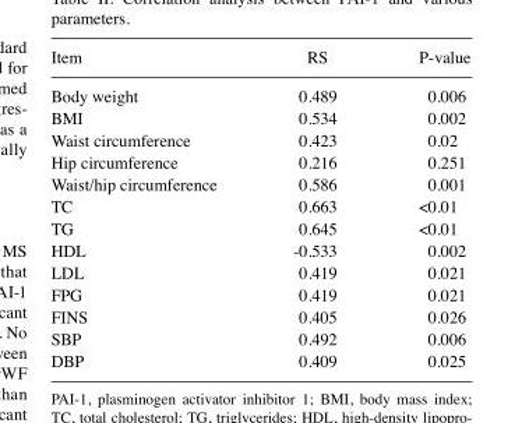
<table><thead><tr><td>Item</td><td>RS</td><td>P-value</td></tr></thead><tbody><tr><td>Body weight</td><td>0.489</td><td>0.006</td></tr><tr><td>BMI</td><td>0.534</td><td>0.002</td></tr><tr><td>Waist circumference</td><td>0.423</td><td>0.02</td></tr><tr><td>Hip circumference</td><td>0.216</td><td>0.251</td></tr><tr><td>Waist/hip circumference</td><td>0.586</td><td>0.001</td></tr><tr><td>TC</td><td>0.663</td><td>&lt;0.01</td></tr><tr><td>TG</td><td>0.645</td><td>&lt;0.01</td></tr><tr><td>HDL</td><td>-0.533</td><td>0.002</td></tr><tr><td>LDL</td><td>0.419</td><td>0.021</td></tr><tr><td>FPG</td><td>0.419</td><td>0.021</td></tr><tr><td>FINS</td><td>0.405</td><td>0.026</td></tr><tr><td>SBP</td><td>0.492</td><td>0.006</td></tr><tr><td>DBP</td><td>0.409</td><td>0.025</td></tr></tbody></table>